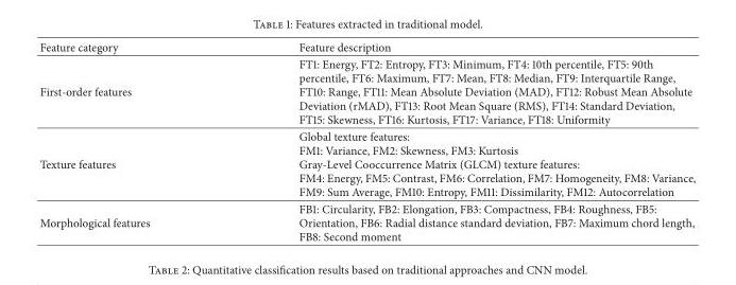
<table><thead><tr><td>Feature category</td><td>Feature description</td></tr></thead><tbody><tr><td>First-order features</td><td>FT1: Energy, FT2: Entropy, FT3: Minimum, FT4: 10th percentile, FT5: 90th percentile, FT6: Maximum, FT7: Mean, FT8: Median, FT9: Interquartile Range, FT10: Range, FT11: Mean Absolute Deviation (MAD), FT12: Robust Mean Absolute Deviation (rMAD), FT13: Root Mean Square (RMS), FT14: Standard Deviation, FT15: Skewness, FT16: Kurtosis, FT17: Variance, FT18: Uniformity</td></tr><tr><td>Texture features</td><td>Global texture features: FM1: Variance, FM2: Skewness, FM3: Kurtosis Gray-Level Cooccurrence Matrix (GLCM) texture features: FM4: Energy, FM5: Contrast, FM6: Correlation, FM7: Homogeneity, FM8: Variance, FM9: Sum Average, FM10: Entropy, FM11: Dissimilarity, FM12: Autocorrelation</td></tr><tr><td>Morphological features</td><td>FB1: Circularity, FB2: Elongation, FB3: Compactness, FB4: Roughness, FB5: Orientation, FB6: Radial distance standard deviation, FB7: Maximum chord length, FB8: Second moment</td></tr></tbody></table>